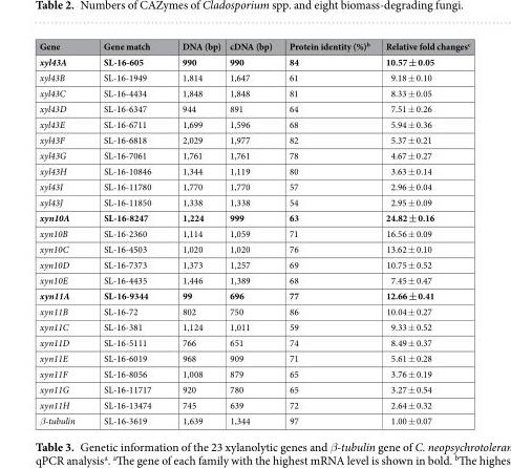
<table><thead><tr><td>Gene</td><td>Gene match</td><td>DNA (bp)</td><td>cDNA (bp)</td><td>Protein identity (%)<sup>b</sup></td><td>Relative fold changes<sup>c</sup></td></tr></thead><tbody><tr><td>xyl43A</td><td>SL-16-605</td><td>990</td><td>990</td><td>84</td><td>10.57 ± 0.05</td></tr><tr><td>xyl43B</td><td>SL-16-1949</td><td>1,814</td><td>1,647</td><td>61</td><td>9.18 ± 0.10</td></tr><tr><td>xyl43C</td><td>SL-16-4434</td><td>1,848</td><td>1,848</td><td>81</td><td>8.33 ± 0.05</td></tr><tr><td>xyl43D</td><td>SL-16-6347</td><td>944</td><td>891</td><td>64</td><td>7.51 ± 0.26</td></tr><tr><td>xyl43E</td><td>SL-16-6711</td><td>1,699</td><td>1,596</td><td>68</td><td>5.94 ± 0.36</td></tr><tr><td>xyl43F</td><td>SL-16-6818</td><td>2,029</td><td>1,977</td><td>82</td><td>5.37 ± 0.21</td></tr><tr><td>xyl43G</td><td>SL-16-7061</td><td>1,761</td><td>1,761</td><td>78</td><td>4.67 ± 0.27</td></tr><tr><td>xyl43H</td><td>SL-16-10846</td><td>1,344</td><td>1,119</td><td>80</td><td>3.63 ± 0.14</td></tr><tr><td>xyl43I</td><td>SL-16-11780</td><td>1,770</td><td>1,770</td><td>57</td><td>2.96 ± 0.04</td></tr><tr><td>xyl43J</td><td>SL-16-11850</td><td>1,338</td><td>1,338</td><td>54</td><td>2.95 ± 0.09</td></tr><tr><td>xyn10A</td><td>SL-16-8247</td><td>1,224</td><td>999</td><td>63</td><td>24.82 ± 0.16</td></tr><tr><td>xyn10B</td><td>SL-16-2360</td><td>1,114</td><td>1,059</td><td>71</td><td>16.56 ± 0.09</td></tr><tr><td>xyn10C</td><td>SL-16-4503</td><td>1,020</td><td>1,020</td><td>76</td><td>13.62 ± 0.10</td></tr><tr><td>xyn10D</td><td>SL-16-7373</td><td>1,373</td><td>1,257</td><td>69</td><td>10.75 ± 0.52</td></tr><tr><td>xyn10E</td><td>SL-16-4435</td><td>1,446</td><td>1,389</td><td>68</td><td>7.45 ± 0.47</td></tr><tr><td>xyn11A</td><td>SL-16-9344</td><td>99</td><td>696</td><td>77</td><td>12.66 ± 0.41</td></tr><tr><td>xyn11B</td><td>SL-16-72</td><td>802</td><td>750</td><td>86</td><td>10.04 ± 0.27</td></tr><tr><td>xyn11C</td><td>SL-16-381</td><td>1,124</td><td>1,011</td><td>59</td><td>9.33 ± 0.52</td></tr><tr><td>xyn11D</td><td>SL-16-5111</td><td>766</td><td>651</td><td>74</td><td>8.49 ± 0.37</td></tr><tr><td>xyn11E</td><td>SL-16-6019</td><td>968</td><td>909</td><td>71</td><td>5.61 ± 0.28</td></tr><tr><td>xyn11F</td><td>SL-16-8056</td><td>1,008</td><td>879</td><td>65</td><td>3.76 ± 0.19</td></tr><tr><td>xyn11G</td><td>SL-16-11717</td><td>920</td><td>780</td><td>65</td><td>3.27 ± 0.54</td></tr><tr><td>xyn11H</td><td>SL-16-13474</td><td>745</td><td>639</td><td>72</td><td>2.64 ± 0.32</td></tr><tr><td>β-tubulin</td><td>SL-16-3619</td><td>1,639</td><td>1,344</td><td>97</td><td>1.00 ± 0.07</td></tr></tbody></table>